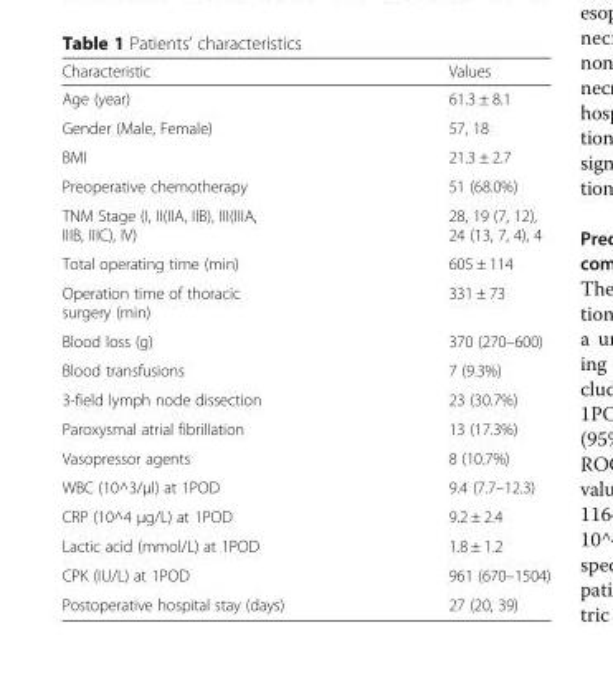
<table><thead><tr><td>Characteristic</td><td>Values</td></tr></thead><tbody><tr><td>Age (year)</td><td>61.3 ± 8.1</td></tr><tr><td>Gender (Male, Female)</td><td>57, 18</td></tr><tr><td>BMI</td><td>21.3 ± 2.7</td></tr><tr><td>Preoperative chemotherapy</td><td>51 (68.0%)</td></tr><tr><td>TNM Stage (I, II(IIA, IIB), III(IIIA, IIIB, IIIC), IV)</td><td>28, 19 (7, 12), 24 (13, 7, 4), 4</td></tr><tr><td>Total operating time (min)</td><td>605 ± 114</td></tr><tr><td>Operation time of thoracic surgery (min)</td><td>331 ± 73</td></tr><tr><td>Blood loss (g)</td><td>370 (270–600)</td></tr><tr><td>Blood transfusions</td><td>7 (9.3%)</td></tr><tr><td>3-field lymph node dissection</td><td>23 (30.7%)</td></tr><tr><td>Paroxysmal atrial fibrillation</td><td>13 (17.3%)</td></tr><tr><td>Vasopressor agents</td><td>8 (10.7%)</td></tr><tr><td>WBC (10^3/μl) at 1POD</td><td>9.4 (7.7–12.3)</td></tr><tr><td>CRP (10^4 μg/L) at 1POD</td><td>9.2 ± 2.4</td></tr><tr><td>Lactic acid (mmol/L) at 1POD</td><td>1.8 ± 1.2</td></tr><tr><td>CPK (IU/L) at 1POD</td><td>961 (670–1504)</td></tr><tr><td>Postoperative hospital stay (days)</td><td>27 (20, 39)</td></tr></tbody></table>